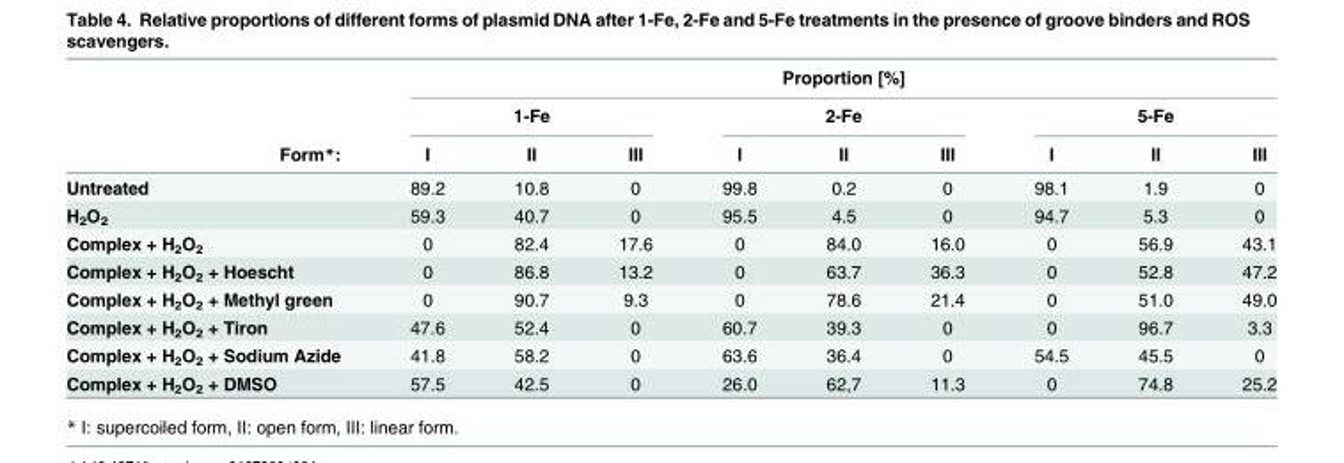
<table><thead><tr><td rowspan="3">Form*:</td><td colspan="9">Proportion [%]</td></tr><tr><td colspan="3">1-Fe</td><td colspan="3">2-Fe</td><td colspan="3">5-Fe</td></tr><tr><td>I</td><td>II</td><td>III</td><td>I</td><td>II</td><td>III</td><td>I</td><td>II</td><td>III</td></tr></thead><tbody><tr><td>Untreated</td><td>89.2</td><td>10.8</td><td>0</td><td>99.8</td><td>0.2</td><td>0</td><td>98.1</td><td>1.9</td><td>0</td></tr><tr><td>H<sub>2</sub>O<sub>2</sub></td><td>59.3</td><td>40.7</td><td>0</td><td>95.5</td><td>4.5</td><td>0</td><td>94.7</td><td>5.3</td><td>0</td></tr><tr><td>Complex + H<sub>2</sub>O<sub>2</sub></td><td>0</td><td>82.4</td><td>17.6</td><td>0</td><td>84.0</td><td>16.0</td><td>0</td><td>56.9</td><td>43.1</td></tr><tr><td>Complex + H<sub>2</sub>O<sub>2</sub> + Hoescht</td><td>0</td><td>86.8</td><td>13.2</td><td>0</td><td>63.7</td><td>36.3</td><td>0</td><td>52.8</td><td>47.2</td></tr><tr><td>Complex + H<sub>2</sub>O<sub>2</sub> + Methyl green</td><td>0</td><td>90.7</td><td>9.3</td><td>0</td><td>78.6</td><td>21.4</td><td>0</td><td>51.0</td><td>49.0</td></tr><tr><td>Complex + H<sub>2</sub>O<sub>2</sub> + Tiron</td><td>47.6</td><td>52.4</td><td>0</td><td>60.7</td><td>39.3</td><td>0</td><td>0</td><td>96.7</td><td>3.3</td></tr><tr><td>Complex + H<sub>2</sub>O<sub>2</sub> + Sodium Azide</td><td>41.8</td><td>58.2</td><td>0</td><td>63.6</td><td>36.4</td><td>0</td><td>54.5</td><td>45.5</td><td>0</td></tr><tr><td>Complex + H<sub>2</sub>O<sub>2</sub> + DMSO</td><td>57.5</td><td>42.5</td><td>0</td><td>26.0</td><td>62,7</td><td>11.3</td><td>0</td><td>74.8</td><td>25.2</td></tr></tbody></table>